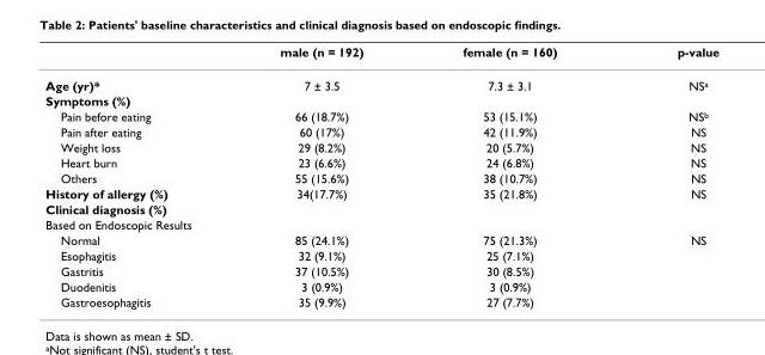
<table><thead><tr><td></td><td>male (n = 192)</td><td>female (n = 160)</td><td>p-value</td></tr></thead><tbody><tr><td>Age (yr)*</td><td>7 ± 3.5</td><td>7.3 ± 3.1</td><td>NS<sup>a</sup></td></tr><tr><td colspan="4">Symptoms (%)</td></tr><tr><td>Pain before eating</td><td>66 (18.7%)</td><td>53 (15.1%)</td><td>NS<sup>b</sup></td></tr><tr><td>Pain after eating</td><td>60 (17%)</td><td>42 (11.9%)</td><td>NS</td></tr><tr><td>Weight loss</td><td>29 (8.2%)</td><td>20 (5.7%)</td><td>NS</td></tr><tr><td>Heart burn</td><td>23 (6.6%)</td><td>24 (6.8%)</td><td>NS</td></tr><tr><td>Others</td><td>55 (15.6%)</td><td>38 (10.7%)</td><td>NS</td></tr><tr><td>History of allergy (%)</td><td>34(17.7%)</td><td>35 (21.8%)</td><td>NS</td></tr><tr><td colspan="4">Clinical diagnosis (%)</td></tr><tr><td colspan="4">Based on Endoscopic Results</td></tr><tr><td>Normal</td><td>85 (24.1%)</td><td>75 (21.3%)</td><td>NS</td></tr><tr><td>Esophagitis</td><td>32 (9.1%)</td><td>25 (7.1%)</td><td></td></tr><tr><td>Gastritis</td><td>37 (10.5%)</td><td>30 (8.5%)</td><td></td></tr><tr><td>Duodenitis</td><td>3 (0.9%)</td><td>3 (0.9%)</td><td></td></tr><tr><td>Gastroesophagitis</td><td>35 (9.9%)</td><td>27 (7.7%)</td><td></td></tr></tbody></table>